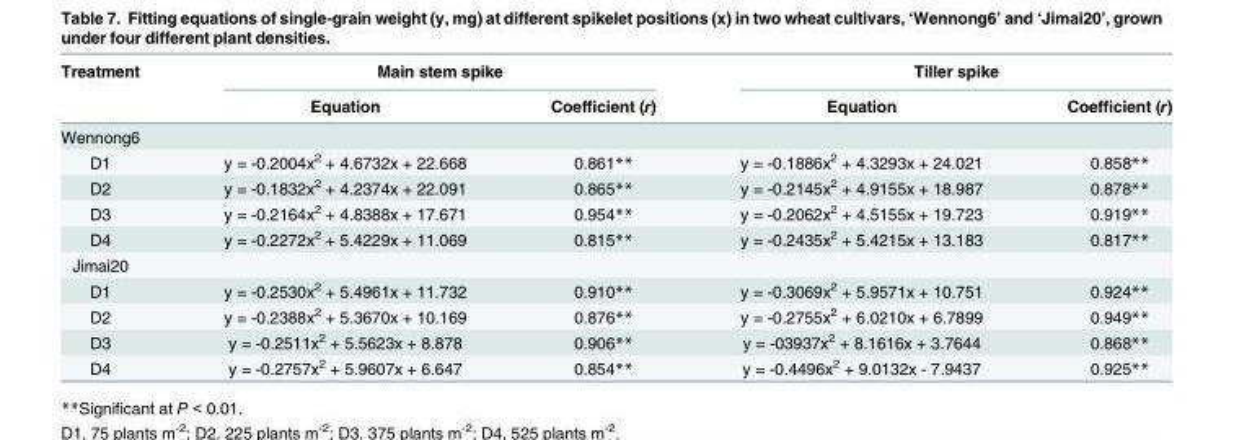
<table><thead><tr><td rowspan="2">Treatment</td><td colspan="2">Main stem spike</td><td colspan="2">Tiller spike</td></tr><tr><td>Equation</td><td>Coefficient (r)</td><td>Equation</td><td>Coefficient (r)</td></tr></thead><tbody><tr><td colspan="5">Wennong6</td></tr><tr><td>D1</td><td>y = -0.2004x<sup>2</sup> + 4.6732x + 22.668</td><td>0.861**</td><td>y = -0.1886x<sup>2</sup> + 4.3293x + 24.021</td><td>0.858**</td></tr><tr><td>D2</td><td>y = -0.1832x<sup>2</sup> + 4.2374x + 22.091</td><td>0.865**</td><td>y = -0.2145x<sup>2</sup> + 4.9155x + 18.987</td><td>0.878**</td></tr><tr><td>D3</td><td>y = -0.2164x<sup>2</sup> + 4.8388x + 17.671</td><td>0.954**</td><td>y = -0.2062x<sup>2</sup> + 4.5155x + 19.723</td><td>0.919**</td></tr><tr><td>D4</td><td>y = -0.2272x<sup>2</sup> + 5.4229x + 11.069</td><td>0.815**</td><td>y = -0.2435x<sup>2</sup> + 5.4215x + 13.183</td><td>0.817**</td></tr><tr><td colspan="5">Jimai20</td></tr><tr><td>D1</td><td>y = -0.2530x<sup>2</sup> + 5.4961x + 11.732</td><td>0.910**</td><td>y = -0.3069x<sup>2</sup> + 5.9571x + 10.751</td><td>0.924**</td></tr><tr><td>D2</td><td>y = -0.2388x<sup>2</sup> + 5.3670x + 10.169</td><td>0.876**</td><td>y = -0.2755x<sup>2</sup> + 6.0210x + 6.7899</td><td>0.949**</td></tr><tr><td>D3</td><td>y = -0.2511x<sup>2</sup> + 5.5623x + 8.878</td><td>0.906**</td><td>y = -03937x<sup>2</sup> + 8.1616x + 3.7644</td><td>0.868**</td></tr><tr><td>D4</td><td>y = -0.2757x<sup>2</sup> + 5.9607x + 6.647</td><td>0.854**</td><td>y = -0.4496x<sup>2</sup> + 9.0132x - 7.9437</td><td>0.925**</td></tr></tbody></table>